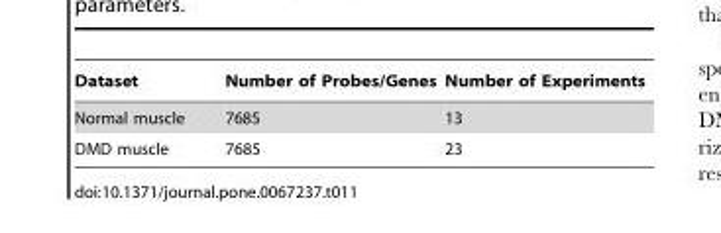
<table><thead><tr><td>Dataset</td><td>Number of Probes/Genes</td><td>Number of Experiments</td></tr></thead><tbody><tr><td>Normal muscle</td><td>7685</td><td>13</td></tr><tr><td>DMD muscle</td><td>7685</td><td>23</td></tr></tbody></table>